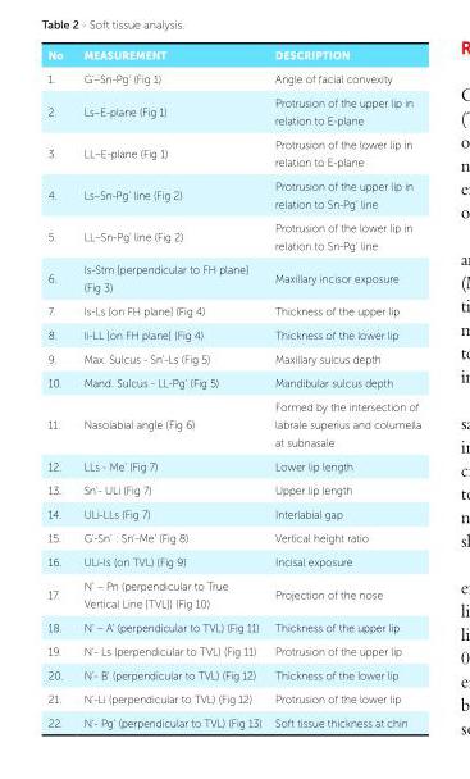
<table><tbody><tr><td>No</td><td>MEASUREMENT</td><td>DESCRIPTION</td></tr><tr><td>1.</td><td>G’–Sn-Pg’ (Fig 1)</td><td>Angle of facial convexity</td></tr><tr><td>2.</td><td>Ls–E-plane (Fig 1)</td><td>Protrusion of the upper lip in relation to E-plane</td></tr><tr><td>3.</td><td>LL–E-plane (Fig 1)</td><td>Protrusion of the lower lip in relation to E-plane</td></tr><tr><td>4.</td><td>Ls–Sn-Pg’ line (Fig 2)</td><td>Protrusion of the upper lip in relation to Sn-Pg’ line</td></tr><tr><td>5.</td><td>LL–Sn-Pg’ line (Fig 2)</td><td>Protrusion of the lower lip in relation to Sn-Pg’ line</td></tr><tr><td>6.</td><td>Is-Stm [perpendicular to FH plane] (Fig 3)</td><td>Maxillary incisor exposure</td></tr><tr><td>7.</td><td>Is-Ls [on FH plane] (Fig 4)</td><td>Thickness of the upper lip</td></tr><tr><td>8.</td><td>Ii-LL [on FH plane] (Fig 4)</td><td>Thickness of the lower lip</td></tr><tr><td>9.</td><td>Max. Sulcus - Sn’-Ls (Fig 5)</td><td>Maxillary sulcus depth</td></tr><tr><td>10.</td><td>Mand. Sulcus - LL-Pg’ (Fig 5)</td><td>Mandibular sulcus depth</td></tr><tr><td>11.</td><td>Nasolabial angle (Fig 6)</td><td>Formed by the intersection of labrale superius and columella at subnasale</td></tr><tr><td>12.</td><td>LLs - Me’ (Fig 7)</td><td>Lower lip length</td></tr><tr><td>13.</td><td>Sn’- ULi (Fig 7)</td><td>Upper lip length</td></tr><tr><td>14.</td><td>ULi-LLs (Fig 7)</td><td>Interlabial gap</td></tr><tr><td>15.</td><td>G’-Sn’ : Sn’-Me’ (Fig 8)</td><td>Vertical height ratio</td></tr><tr><td>16.</td><td>ULi-Is (on TVL) (Fig 9)</td><td>Incisal exposure</td></tr><tr><td>17.</td><td>N’ – Pn (perpendicular to True Vertical Line [TVL]) (Fig 10)</td><td>Projection of the nose</td></tr><tr><td>18.</td><td>N’ – A’ (perpendicular to TVL) (Fig 11)</td><td>Thickness of the upper lip</td></tr><tr><td>19.</td><td>N’- Ls (perpendicular to TVL) (Fig 11)</td><td>Protrusion of the upper lip</td></tr><tr><td>20.</td><td>N’- B’ (perpendicular to TVL) (Fig 12)</td><td>Thickness of the lower lip</td></tr><tr><td>21.</td><td>N’-Li (perpendicular to TVL) (Fig 12)</td><td>Protrusion of the lower lip</td></tr><tr><td>22.</td><td>N’- Pg’ (perpendicular to TVL) (Fig 13)</td><td>Soft tissue thickness at chin</td></tr></tbody></table>